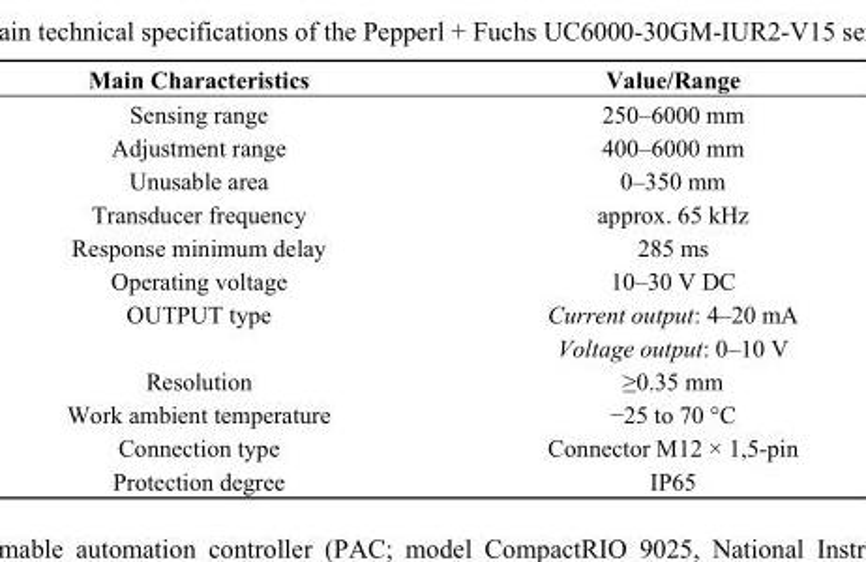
<table><thead><tr><td>Main Characteristics</td><td>Value/Range</td></tr></thead><tbody><tr><td>Sensing range</td><td>250–6000 mm</td></tr><tr><td>Adjustment range</td><td>400–6000 mm</td></tr><tr><td>Unusable area</td><td>0–350 mm</td></tr><tr><td>Transducer frequency</td><td>approx. 65 kHz</td></tr><tr><td>Response minimum delay</td><td>285 ms</td></tr><tr><td>Operating voltage</td><td>10–30 V DC</td></tr><tr><td rowspan="2">OUTPUT type</td><td>Current output: 4–20 mA</td></tr><tr><td>Voltage output: 0–10 V</td></tr><tr><td>Resolution</td><td>≥0.35 mm</td></tr><tr><td>Work ambient temperature</td><td>−25 to 70 °C</td></tr><tr><td>Connection type</td><td>Connector M12 × 1,5-pin</td></tr><tr><td>Protection degree</td><td>IP65</td></tr></tbody></table>